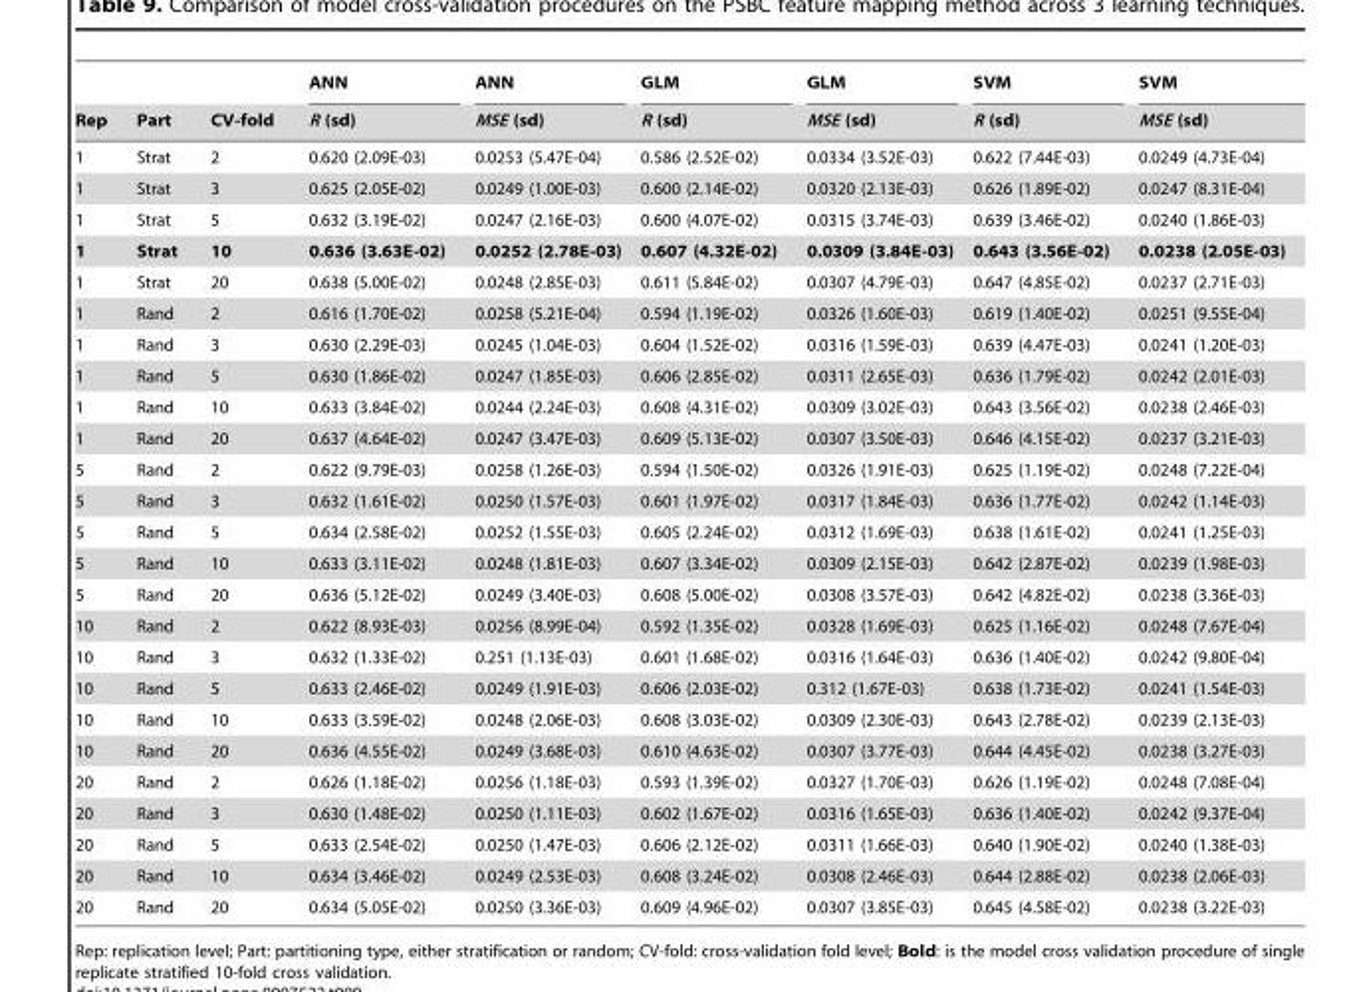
<table><thead><tr><td rowspan="2">Rep</td><td rowspan="2">Part</td><td rowspan="2">CV-fold</td><td rowspan="2">ANN R (sd)</td><td rowspan="2">ANN MSE (sd)</td><td rowspan="2">GLM R (sd)</td><td rowspan="2">GLM MSE (sd)</td><td rowspan="2">SVM R (sd)</td><td rowspan="2">SVM MSE (sd)</td></tr><tr></tr></thead><tbody><tr><td>1</td><td>Strat</td><td>2</td><td>0.620 (2.09E-03)</td><td>0.0253 (5.47E-04)</td><td>0.586 (2.52E-02)</td><td>0.0334 (3.52E-03)</td><td>0.622 (7.44E-03)</td><td>0.0249 (4.73E-04)</td></tr><tr><td>1</td><td>Strat</td><td>3</td><td>0.625 (2.05E-02)</td><td>0.0249 (1.00E-03)</td><td>0.600 (2.14E-02)</td><td>0.0320 (2.13E-03)</td><td>0.626 (1.89E-02)</td><td>0.0247 (8.31E-04)</td></tr><tr><td>1</td><td>Strat</td><td>5</td><td>0.632 (3.19E-02)</td><td>0.0247 (2.16E-03)</td><td>0.600 (4.07E-02)</td><td>0.0315 (3.74E-03)</td><td>0.639 (3.46E-02)</td><td>0.0240 (1.86E-03)</td></tr><tr><td>1</td><td>Strat</td><td>10</td><td>0.636 (3.63E-02)</td><td>0.0252 (2.78E-03)</td><td>0.607 (4.32E-02)</td><td>0.0309 (3.84E-03)</td><td>0.643 (3.56E-02)</td><td>0.0238 (2.05E-03)</td></tr><tr><td>1</td><td>Strat</td><td>20</td><td>0.638 (5.00E-02)</td><td>0.0248 (2.85E-03)</td><td>0.611 (5.84E-02)</td><td>0.0307 (4.79E-03)</td><td>0.647 (4.85E-02)</td><td>0.0237 (2.71E-03)</td></tr><tr><td>1</td><td>Rand</td><td>2</td><td>0.616 (1.70E-02)</td><td>0.0258 (5.21E-04)</td><td>0.594 (1.19E-02)</td><td>0.0326 (1.60E-03)</td><td>0.619 (1.40E-02)</td><td>0.0251 (9.55E-04)</td></tr><tr><td>1</td><td>Rand</td><td>3</td><td>0.630 (2.29E-03)</td><td>0.0245 (1.04E-03)</td><td>0.604 (1.52E-02)</td><td>0.0316 (1.59E-03)</td><td>0.639 (4.47E-03)</td><td>0.0241 (1.20E-03)</td></tr><tr><td>1</td><td>Rand</td><td>5</td><td>0.630 (1.86E-02)</td><td>0.0247 (1.85E-03)</td><td>0.606 (2.85E-02)</td><td>0.0311 (2.65E-03)</td><td>0.636 (1.79E-02)</td><td>0.0242 (2.01E-03)</td></tr><tr><td>1</td><td>Rand</td><td>10</td><td>0.633 (3.84E-02)</td><td>0.0244 (2.24E-03)</td><td>0.608 (4.31E-02)</td><td>0.0309 (3.02E-03)</td><td>0.643 (3.56E-02)</td><td>0.0238 (2.46E-03)</td></tr><tr><td>1</td><td>Rand</td><td>20</td><td>0.637 (4.64E-02)</td><td>0.0247 (3.47E-03)</td><td>0.609 (5.13E-02)</td><td>0.0307 (3.50E-03)</td><td>0.646 (4.15E-02)</td><td>0.0237 (3.21E-03)</td></tr><tr><td>5</td><td>Rand</td><td>2</td><td>0.622 (9.79E-03)</td><td>0.0258 (1.26E-03)</td><td>0.594 (1.50E-02)</td><td>0.0326 (1.91E-03)</td><td>0.625 (1.19E-02)</td><td>0.0248 (7.22E-04)</td></tr><tr><td>5</td><td>Rand</td><td>3</td><td>0.632 (1.61E-02)</td><td>0.0250 (1.57E-03)</td><td>0.601 (1.97E-02)</td><td>0.0317 (1.84E-03)</td><td>0.636 (1.77E-02)</td><td>0.0242 (1.14E-03)</td></tr><tr><td>5</td><td>Rand</td><td>5</td><td>0.634 (2.58E-02)</td><td>0.0252 (1.55E-03)</td><td>0.605 (2.24E-02)</td><td>0.0312 (1.69E-03)</td><td>0.638 (1.61E-02)</td><td>0.0241 (1.25E-03)</td></tr><tr><td>5</td><td>Rand</td><td>10</td><td>0.633 (3.11E-02)</td><td>0.0248 (1.81E-03)</td><td>0.607 (3.34E-02)</td><td>0.0309 (2.15E-03)</td><td>0.642 (2.87E-02)</td><td>0.0239 (1.98E-03)</td></tr><tr><td>5</td><td>Rand</td><td>20</td><td>0.636 (5.12E-02)</td><td>0.0249 (3.40E-03)</td><td>0.608 (5.00E-02)</td><td>0.0308 (3.57E-03)</td><td>0.642 (4.82E-02)</td><td>0.0238 (3.36E-03)</td></tr><tr><td>10</td><td>Rand</td><td>2</td><td>0.622 (8.93E-03)</td><td>0.0256 (8.99E-04)</td><td>0.592 (1.35E-02)</td><td>0.0328 (1.69E-03)</td><td>0.625 (1.16E-02)</td><td>0.0248 (7.67E-04)</td></tr><tr><td>10</td><td>Rand</td><td>3</td><td>0.632 (1.33E-02)</td><td>0.251 (1.13E-03)</td><td>0.601 (1.68E-02)</td><td>0.0316 (1.64E-03)</td><td>0.636 (1.40E-02)</td><td>0.0242 (9.80E-04)</td></tr><tr><td>10</td><td>Rand</td><td>5</td><td>0.633 (2.46E-02)</td><td>0.0249 (1.91E-03)</td><td>0.606 (2.03E-02)</td><td>0.312 (1.67E-03)</td><td>0.638 (1.73E-02)</td><td>0.0241 (1.54E-03)</td></tr><tr><td>10</td><td>Rand</td><td>10</td><td>0.633 (3.59E-02)</td><td>0.0248 (2.06E-03)</td><td>0.608 (3.03E-02)</td><td>0.0309 (2.30E-03)</td><td>0.643 (2.78E-02)</td><td>0.0239 (2.13E-03)</td></tr><tr><td>10</td><td>Rand</td><td>20</td><td>0.636 (4.55E-02)</td><td>0.0249 (3.68E-03)</td><td>0.610 (4.63E-02)</td><td>0.0307 (3.77E-03)</td><td>0.644 (4.45E-02)</td><td>0.0238 (3.27E-03)</td></tr><tr><td>20</td><td>Rand</td><td>2</td><td>0.626 (1.18E-02)</td><td>0.0256 (1.18E-03)</td><td>0.593 (1.39E-02)</td><td>0.0327 (1.70E-03)</td><td>0.626 (1.19E-02)</td><td>0.0248 (7.08E-04)</td></tr><tr><td>20</td><td>Rand</td><td>3</td><td>0.630 (1.48E-02)</td><td>0.0250 (1.11E-03)</td><td>0.602 (1.67E-02)</td><td>0.0316 (1.65E-03)</td><td>0.636 (1.40E-02)</td><td>0.0242 (9.37E-04)</td></tr><tr><td>20</td><td>Rand</td><td>5</td><td>0.633 (2.54E-02)</td><td>0.0250 (1.47E-03)</td><td>0.606 (2.12E-02)</td><td>0.0311 (1.66E-03)</td><td>0.640 (1.90E-02)</td><td>0.0240 (1.38E-03)</td></tr><tr><td>20</td><td>Rand</td><td>10</td><td>0.634 (3.46E-02)</td><td>0.0249 (2.53E-03)</td><td>0.608 (3.24E-02)</td><td>0.0308 (2.46E-03)</td><td>0.644 (2.88E-02)</td><td>0.0238 (2.06E-03)</td></tr><tr><td>20</td><td>Rand</td><td>20</td><td>0.634 (5.05E-02)</td><td>0.0250 (3.36E-03)</td><td>0.609 (4.96E-02)</td><td>0.0307 (3.85E-03)</td><td>0.645 (4.58E-02)</td><td>0.0238 (3.22E-03)</td></tr></tbody></table>